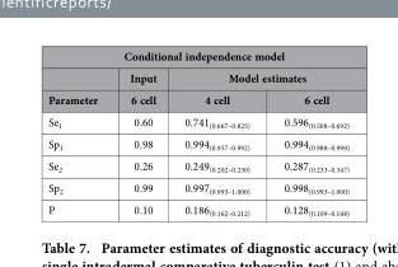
<table><thead><tr><td colspan="4">Conditional independence model</td></tr><tr><td rowspan="2">Parameter</td><td rowspan="2">Input 6 cell</td><td colspan="2">Model estimates</td></tr><tr><td>4 cell</td><td>6 cell</td></tr></thead><tbody><tr><td>Se<sub>1</sub></td><td>0.60</td><td>0.741<sub>(0.667–0.825)</sub></td><td>0.596<sub>(0.508–0.692)</sub></td></tr><tr><td>Sp<sub>1</sub></td><td>0.98</td><td>0.994<sub>(0.957–0.992)</sub></td><td>0.994<sub>(0.988–0.999)</sub></td></tr><tr><td>Se<sub>2</sub></td><td>0.26</td><td>0.249<sub>(0.202–0.230)</sub></td><td>0.287<sub>(0.233–0.347)</sub></td></tr><tr><td>Sp<sub>2</sub></td><td>0.99</td><td>0.997<sub>(0.993–1.000)</sub></td><td>0.998<sub>(0.993–1.000)</sub></td></tr><tr><td>P</td><td>0.10</td><td>0.186<sub>(0.162–0.212)</sub></td><td>0.128<sub>(0.109–0.148)</sub></td></tr></tbody></table>